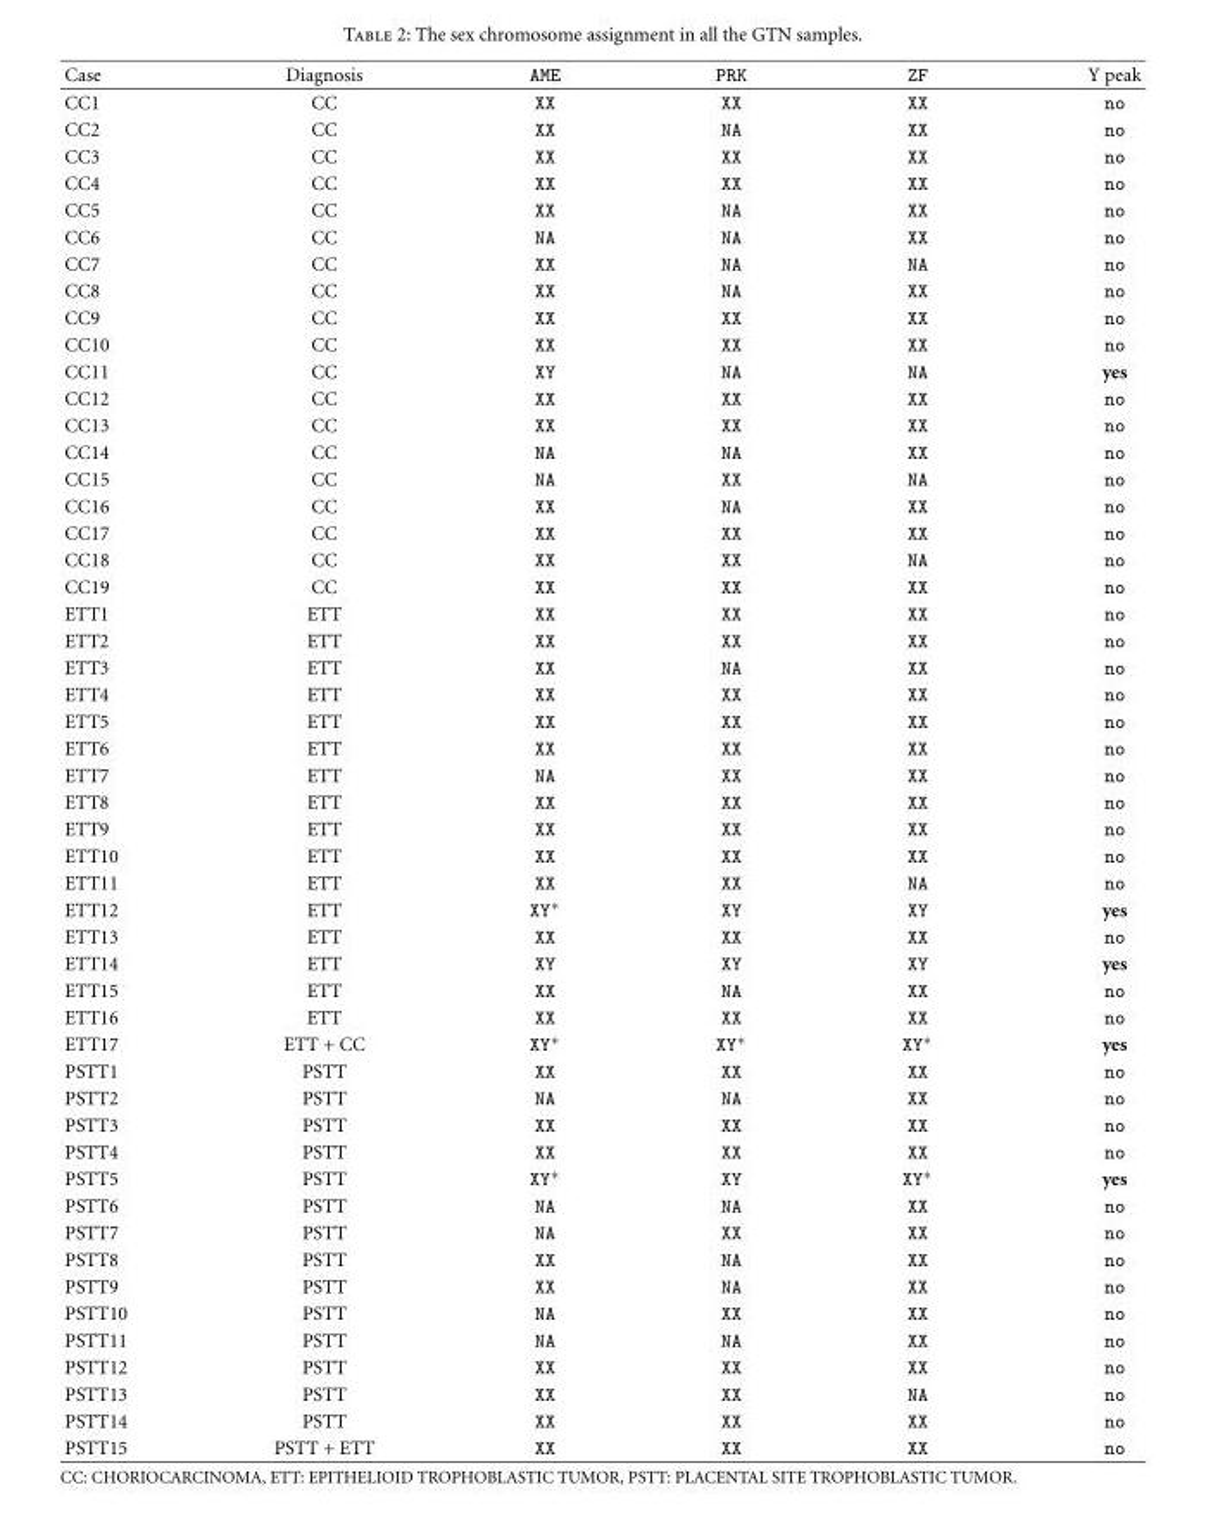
<table><thead><tr><td>Case</td><td>Diagnosis</td><td>AME</td><td>PRK</td><td>ZF</td><td>Y peak</td></tr></thead><tbody><tr><td>CC1</td><td>CC</td><td>XX</td><td>XX</td><td>XX</td><td>no</td></tr><tr><td>CC2</td><td>CC</td><td>XX</td><td>NA</td><td>XX</td><td>no</td></tr><tr><td>CC3</td><td>CC</td><td>XX</td><td>XX</td><td>XX</td><td>no</td></tr><tr><td>CC4</td><td>CC</td><td>XX</td><td>XX</td><td>XX</td><td>no</td></tr><tr><td>CC5</td><td>CC</td><td>XX</td><td>NA</td><td>XX</td><td>no</td></tr><tr><td>CC6</td><td>CC</td><td>NA</td><td>NA</td><td>XX</td><td>no</td></tr><tr><td>CC7</td><td>CC</td><td>XX</td><td>NA</td><td>NA</td><td>no</td></tr><tr><td>CC8</td><td>CC</td><td>XX</td><td>NA</td><td>XX</td><td>no</td></tr><tr><td>CC9</td><td>CC</td><td>XX</td><td>XX</td><td>XX</td><td>no</td></tr><tr><td>CC10</td><td>CC</td><td>XX</td><td>XX</td><td>XX</td><td>no</td></tr><tr><td>CC11</td><td>CC</td><td>XY</td><td>NA</td><td>NA</td><td>yes</td></tr><tr><td>CC12</td><td>CC</td><td>XX</td><td>XX</td><td>XX</td><td>no</td></tr><tr><td>CC13</td><td>CC</td><td>XX</td><td>XX</td><td>XX</td><td>no</td></tr><tr><td>CC14</td><td>CC</td><td>NA</td><td>NA</td><td>XX</td><td>no</td></tr><tr><td>CC15</td><td>CC</td><td>NA</td><td>XX</td><td>NA</td><td>no</td></tr><tr><td>CC16</td><td>CC</td><td>XX</td><td>NA</td><td>XX</td><td>no</td></tr><tr><td>CC17</td><td>CC</td><td>XX</td><td>XX</td><td>XX</td><td>no</td></tr><tr><td>CC18</td><td>CC</td><td>XX</td><td>XX</td><td>NA</td><td>no</td></tr><tr><td>CC19</td><td>CC</td><td>XX</td><td>XX</td><td>XX</td><td>no</td></tr><tr><td>ETT1</td><td>ETT</td><td>XX</td><td>XX</td><td>XX</td><td>no</td></tr><tr><td>ETT2</td><td>ETT</td><td>XX</td><td>XX</td><td>XX</td><td>no</td></tr><tr><td>ETT3</td><td>ETT</td><td>XX</td><td>NA</td><td>XX</td><td>no</td></tr><tr><td>ETT4</td><td>ETT</td><td>XX</td><td>XX</td><td>XX</td><td>no</td></tr><tr><td>ETT5</td><td>ETT</td><td>XX</td><td>XX</td><td>XX</td><td>no</td></tr><tr><td>ETT6</td><td>ETT</td><td>XX</td><td>XX</td><td>XX</td><td>no</td></tr><tr><td>ETT7</td><td>ETT</td><td>NA</td><td>XX</td><td>XX</td><td>no</td></tr><tr><td>ETT8</td><td>ETT</td><td>XX</td><td>XX</td><td>XX</td><td>no</td></tr><tr><td>ETT9</td><td>ETT</td><td>XX</td><td>XX</td><td>XX</td><td>no</td></tr><tr><td>ETT10</td><td>ETT</td><td>XX</td><td>XX</td><td>XX</td><td>no</td></tr><tr><td>ETT11</td><td>ETT</td><td>XX</td><td>XX</td><td>NA</td><td>no</td></tr><tr><td>ETT12</td><td>ETT</td><td>XY∗</td><td>XY</td><td>XY</td><td>yes</td></tr><tr><td>ETT13</td><td>ETT</td><td>XX</td><td>XX</td><td>XX</td><td>no</td></tr><tr><td>ETT14</td><td>ETT</td><td>XY</td><td>XY</td><td>XY</td><td>yes</td></tr><tr><td>ETT15</td><td>ETT</td><td>XX</td><td>NA</td><td>XX</td><td>no</td></tr><tr><td>ETT16</td><td>ETT</td><td>XX</td><td>XX</td><td>XX</td><td>no</td></tr><tr><td>ETT17</td><td>ETT + CC</td><td>XY∗</td><td>XY∗</td><td>XY∗</td><td>yes</td></tr><tr><td>PSTT1</td><td>PSTT</td><td>XX</td><td>XX</td><td>XX</td><td>no</td></tr><tr><td>PSTT2</td><td>PSTT</td><td>NA</td><td>NA</td><td>XX</td><td>no</td></tr><tr><td>PSTT3</td><td>PSTT</td><td>XX</td><td>XX</td><td>XX</td><td>no</td></tr><tr><td>PSTT4</td><td>PSTT</td><td>XX</td><td>XX</td><td>XX</td><td>no</td></tr><tr><td>PSTT5</td><td>PSTT</td><td>XY∗</td><td>XY</td><td>XY∗</td><td>yes</td></tr><tr><td>PSTT6</td><td>PSTT</td><td>NA</td><td>NA</td><td>XX</td><td>no</td></tr><tr><td>PSTT7</td><td>PSTT</td><td>NA</td><td>XX</td><td>XX</td><td>no</td></tr><tr><td>PSTT8</td><td>PSTT</td><td>XX</td><td>NA</td><td>XX</td><td>no</td></tr><tr><td>PSTT9</td><td>PSTT</td><td>XX</td><td>NA</td><td>XX</td><td>no</td></tr><tr><td>PSTT10</td><td>PSTT</td><td>NA</td><td>XX</td><td>XX</td><td>no</td></tr><tr><td>PSTT11</td><td>PSTT</td><td>NA</td><td>NA</td><td>XX</td><td>no</td></tr><tr><td>PSTT12</td><td>PSTT</td><td>XX</td><td>XX</td><td>XX</td><td>no</td></tr><tr><td>PSTT13</td><td>PSTT</td><td>XX</td><td>XX</td><td>NA</td><td>no</td></tr><tr><td>PSTT14</td><td>PSTT</td><td>XX</td><td>XX</td><td>XX</td><td>no</td></tr><tr><td>PSTT15</td><td>PSTT + ETT</td><td>XX</td><td>XX</td><td>XX</td><td>no</td></tr></tbody></table>